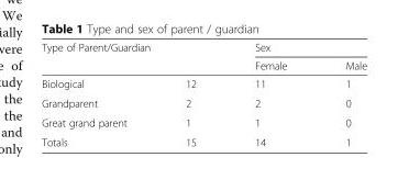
<table><thead><tr><td rowspan="2" colspan="2">Type of Parent/Guardian</td><td colspan="2">Sex</td></tr><tr><td rowspan="2">Female 11</td><td rowspan="2">Male 1</td></tr><tr><td>Biological</td><td>12</td></tr></thead><tbody><tr><td>Grandparent</td><td>2</td><td>2</td><td>0</td></tr><tr><td>Great grand parent</td><td>1</td><td>1</td><td>0</td></tr><tr><td>Totals</td><td>15</td><td>14</td><td>1</td></tr></tbody></table>